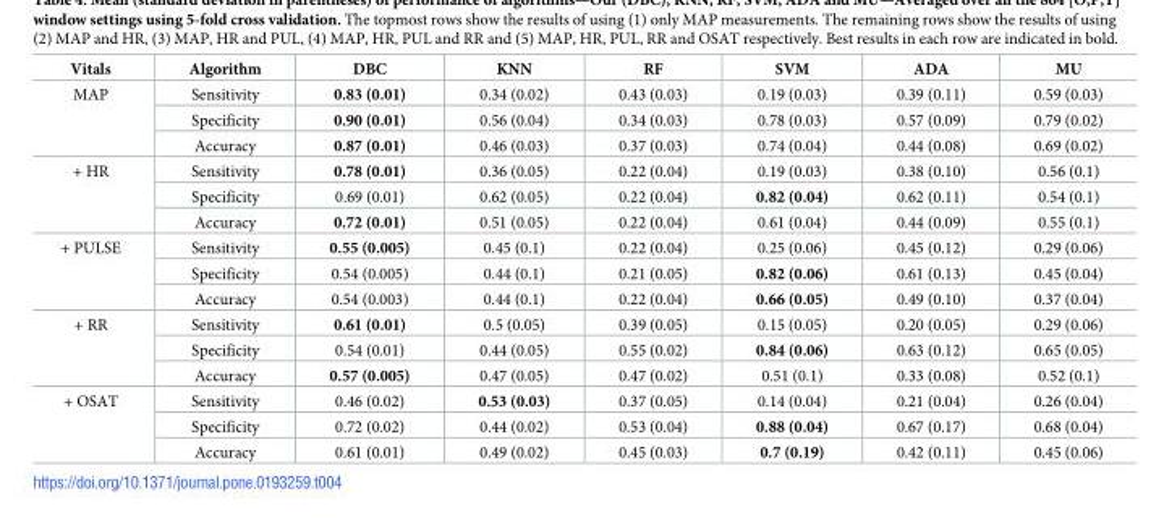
<table><thead><tr><td>Vitals</td><td>Algorithm</td><td>DBC</td><td>KNN</td><td>RF</td><td>SVM</td><td>ADA</td><td>MU</td></tr></thead><tbody><tr><td rowspan="3">MAP</td><td>Sensitivity</td><td>0.83 (0.01)</td><td>0.34 (0.02)</td><td>0.43 (0.03)</td><td>0.19 (0.03)</td><td>0.39 (0.11)</td><td>0.59 (0.03)</td></tr><tr><td>Specificity</td><td>0.90 (0.01)</td><td>0.56 (0.04)</td><td>0.34 (0.03)</td><td>0.78 (0.03)</td><td>0.57 (0.09)</td><td>0.79 (0.02)</td></tr><tr><td>Accuracy</td><td>0.87 (0.01)</td><td>0.46 (0.03)</td><td>0.37 (0.03)</td><td>0.74 (0.04)</td><td>0.44 (0.08)</td><td>0.69 (0.02)</td></tr><tr><td rowspan="3">+ HR</td><td>Sensitivity</td><td>0.78 (0.01)</td><td>0.36 (0.05)</td><td>0.22 (0.04)</td><td>0.19 (0.03)</td><td>0.38 (0.10)</td><td>0.56 (0.1)</td></tr><tr><td>Specificity</td><td>0.69 (0.01)</td><td>0.62 (0.05)</td><td>0.22 (0.04)</td><td>0.82 (0.04)</td><td>0.62 (0.11)</td><td>0.54 (0.1)</td></tr><tr><td>Accuracy</td><td>0.72 (0.01)</td><td>0.51 (0.05)</td><td>0.22 (0.04)</td><td>0.61 (0.04)</td><td>0.44 (0.09)</td><td>0.55 (0.1)</td></tr><tr><td rowspan="3">+ PULSE</td><td>Sensitivity</td><td>0.55 (0.005)</td><td>0.45 (0.1)</td><td>0.22 (0.04)</td><td>0.25 (0.06)</td><td>0.45 (0.12)</td><td>0.29 (0.06)</td></tr><tr><td>Specificity</td><td>0.54 (0.005)</td><td>0.44 (0.1)</td><td>0.21 (0.05)</td><td>0.82 (0.06)</td><td>0.61 (0.13)</td><td>0.45 (0.04)</td></tr><tr><td>Accuracy</td><td>0.54 (0.003)</td><td>0.44 (0.1)</td><td>0.22 (0.04)</td><td>0.66 (0.05)</td><td>0.49 (0.10)</td><td>0.37 (0.04)</td></tr><tr><td rowspan="3">+ RR</td><td>Sensitivity</td><td>0.61 (0.01)</td><td>0.5 (0.05)</td><td>0.39 (0.05)</td><td>0.15 (0.05)</td><td>0.20 (0.05)</td><td>0.29 (0.06)</td></tr><tr><td>Specificity</td><td>0.54 (0.01)</td><td>0.44 (0.05)</td><td>0.55 (0.02)</td><td>0.84 (0.06)</td><td>0.63 (0.12)</td><td>0.65 (0.05)</td></tr><tr><td>Accuracy</td><td>0.57 (0.005)</td><td>0.47 (0.05)</td><td>0.47 (0.02)</td><td>0.51 (0.1)</td><td>0.33 (0.08)</td><td>0.52 (0.1)</td></tr><tr><td rowspan="3">+ OSAT</td><td>Sensitivity</td><td>0.46 (0.02)</td><td>0.53 (0.03)</td><td>0.37 (0.05)</td><td>0.14 (0.04)</td><td>0.21 (0.04)</td><td>0.26 (0.04)</td></tr><tr><td>Specificity</td><td>0.72 (0.02)</td><td>0.44 (0.02)</td><td>0.53 (0.04)</td><td>0.88 (0.04)</td><td>0.67 (0.17)</td><td>0.68 (0.04)</td></tr><tr><td>Accuracy</td><td>0.61 (0.01)</td><td>0.49 (0.02)</td><td>0.45 (0.03)</td><td>0.7 (0.19)</td><td>0.42 (0.11)</td><td>0.45 (0.06)</td></tr></tbody></table>